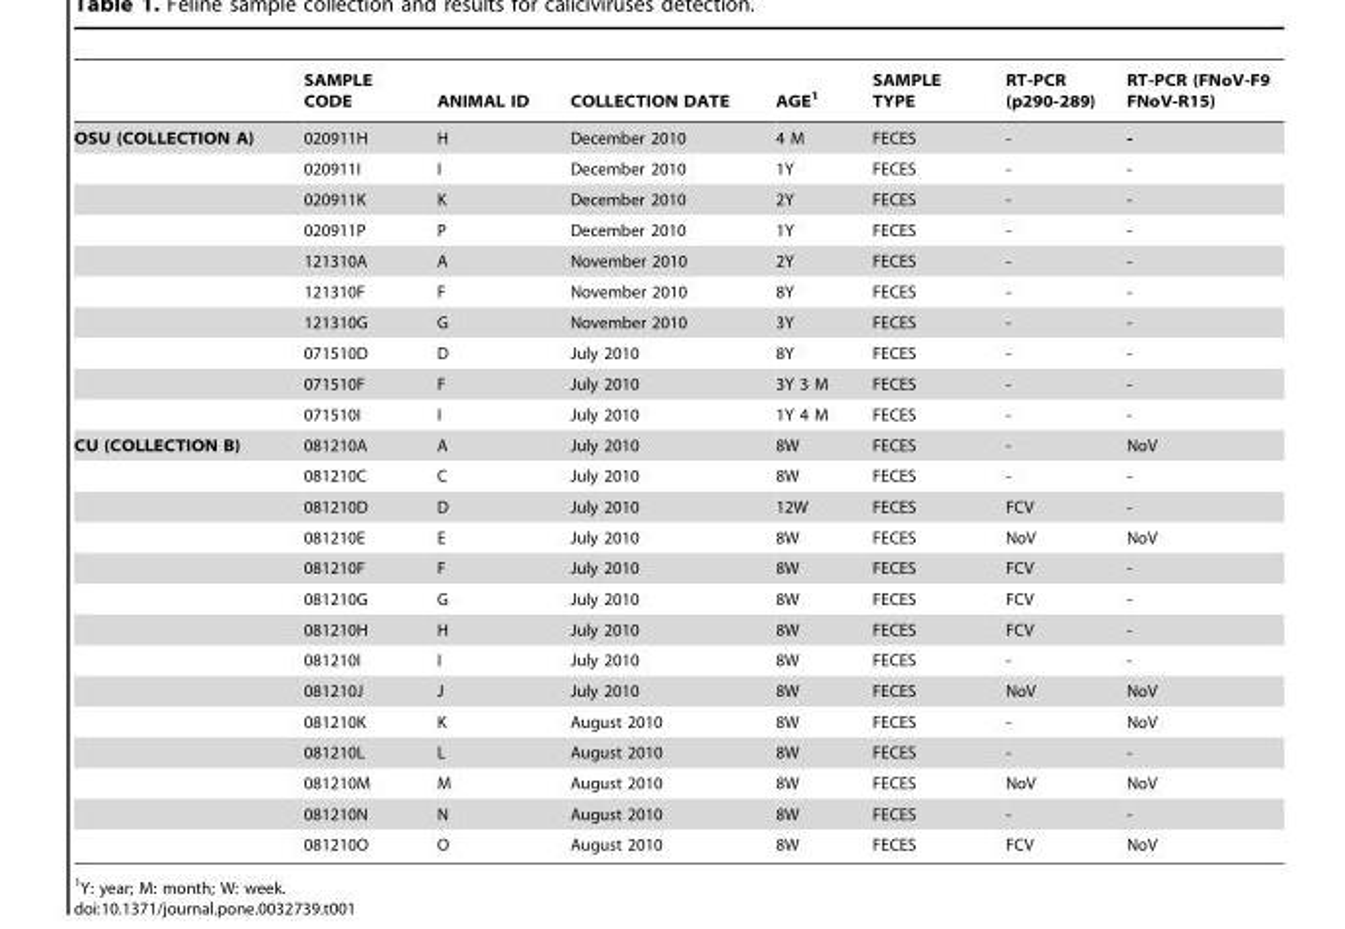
<table><thead><tr><td></td><td>SAMPLE CODE</td><td>ANIMAL ID</td><td>COLLECTION DATE</td><td>AGE<sup>1</sup></td><td>SAMPLE TYPE</td><td>RT-PCR (p290-289)</td><td>RT-PCR (FNoV-F9 FNoV-R15)</td></tr></thead><tbody><tr><td rowspan="10">OSU (COLLECTION A)</td><td>020911H</td><td>H</td><td>December 2010</td><td>4 M</td><td>FECES</td><td>-</td><td>-</td></tr><tr><td>020911I</td><td>I</td><td>December 2010</td><td>1Y</td><td>FECES</td><td>-</td><td>-</td></tr><tr><td>020911K</td><td>K</td><td>December 2010</td><td>2Y</td><td>FECES</td><td>-</td><td>-</td></tr><tr><td>020911P</td><td>P</td><td>December 2010</td><td>1Y</td><td>FECES</td><td>-</td><td>-</td></tr><tr><td>121310A</td><td>A</td><td>November 2010</td><td>2Y</td><td>FECES</td><td>-</td><td>-</td></tr><tr><td>121310F</td><td>F</td><td>November 2010</td><td>8Y</td><td>FECES</td><td>-</td><td>-</td></tr><tr><td>121310G</td><td>G</td><td>November 2010</td><td>3Y</td><td>FECES</td><td>-</td><td>-</td></tr><tr><td>071510D</td><td>D</td><td>July 2010</td><td>8Y</td><td>FECES</td><td>-</td><td>-</td></tr><tr><td>071510F</td><td>F</td><td>July 2010</td><td>3Y 3 M</td><td>FECES</td><td>-</td><td>-</td></tr><tr><td>071510I</td><td>I</td><td>July 2010</td><td>1Y 4 M</td><td>FECES</td><td>-</td><td>-</td></tr><tr><td rowspan="14">CU (COLLECTION B)</td><td>081210A</td><td>A</td><td>July 2010</td><td>8W</td><td>FECES</td><td>-</td><td>NoV</td></tr><tr><td>081210C</td><td>C</td><td>July 2010</td><td>8W</td><td>FECES</td><td>-</td><td>-</td></tr><tr><td>081210D</td><td>D</td><td>July 2010</td><td>12W</td><td>FECES</td><td>FCV</td><td>-</td></tr><tr><td>081210E</td><td>E</td><td>July 2010</td><td>8W</td><td>FECES</td><td>NoV</td><td>NoV</td></tr><tr><td>081210F</td><td>F</td><td>July 2010</td><td>8W</td><td>FECES</td><td>FCV</td><td>-</td></tr><tr><td>081210G</td><td>G</td><td>July 2010</td><td>8W</td><td>FECES</td><td>FCV</td><td>-</td></tr><tr><td>081210H</td><td>H</td><td>July 2010</td><td>8W</td><td>FECES</td><td>FCV</td><td>-</td></tr><tr><td>081210I</td><td>I</td><td>July 2010</td><td>8W</td><td>FECES</td><td>-</td><td>-</td></tr><tr><td>081210J</td><td>J</td><td>July 2010</td><td>8W</td><td>FECES</td><td>NoV</td><td>NoV</td></tr><tr><td>081210K</td><td>K</td><td>August 2010</td><td>8W</td><td>FECES</td><td>-</td><td>NoV</td></tr><tr><td>081210L</td><td>L</td><td>August 2010</td><td>8W</td><td>FECES</td><td>-</td><td>-</td></tr><tr><td>081210M</td><td>M</td><td>August 2010</td><td>8W</td><td>FECES</td><td>NoV</td><td>NoV</td></tr><tr><td>081210N</td><td>N</td><td>August 2010</td><td>8W</td><td>FECES</td><td>-</td><td>-</td></tr><tr><td>081210O</td><td>O</td><td>August 2010</td><td>8W</td><td>FECES</td><td>FCV</td><td>NoV</td></tr></tbody></table>